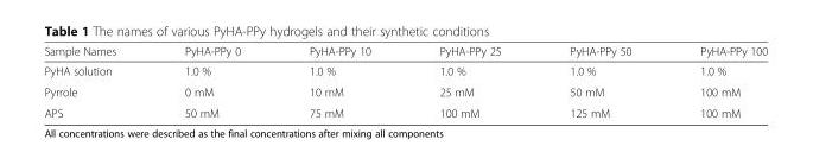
<table><thead><tr><td>Sample Names</td><td>PyHA-PPy 0</td><td>PyHA-PPy 10</td><td>PyHA-PPy 25</td><td>PyHA-PPy 50</td><td>PyHA-PPy 100</td></tr></thead><tbody><tr><td>PyHA solution</td><td>1.0 %</td><td>1.0 %</td><td>1.0 %</td><td>1.0 %</td><td>1.0 %</td></tr><tr><td>Pyrrole</td><td>0 mM</td><td>10 mM</td><td>25 mM</td><td>50 mM</td><td>100 mM</td></tr><tr><td>APS</td><td>50 mM</td><td>75 mM</td><td>100 mM</td><td>125 mM</td><td>100 mM</td></tr></tbody></table>